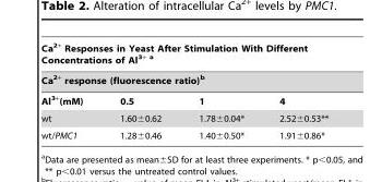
<table><thead><tr><td rowspan="2" colspan="4">Ca<sup>2+</sup> Responses in Yeast After Stimulation With Different Concentrations of Al<sup>3+</sup> a Ca<sup>2+</sup> response (fluorescence ratio)<sup>b</sup></td></tr><tr></tr><tr><td>Al<sup>3+</sup>(mM)</td><td>0.5</td><td>1</td><td>4</td></tr></thead><tbody><tr><td>wt</td><td>1.60±0.62</td><td>1.78±0.04*</td><td>2.52±0.53**</td></tr><tr><td>wt/PMC1</td><td>1.28±0.46</td><td>1.40±0.50*</td><td>1.91±0.86*</td></tr></tbody></table>